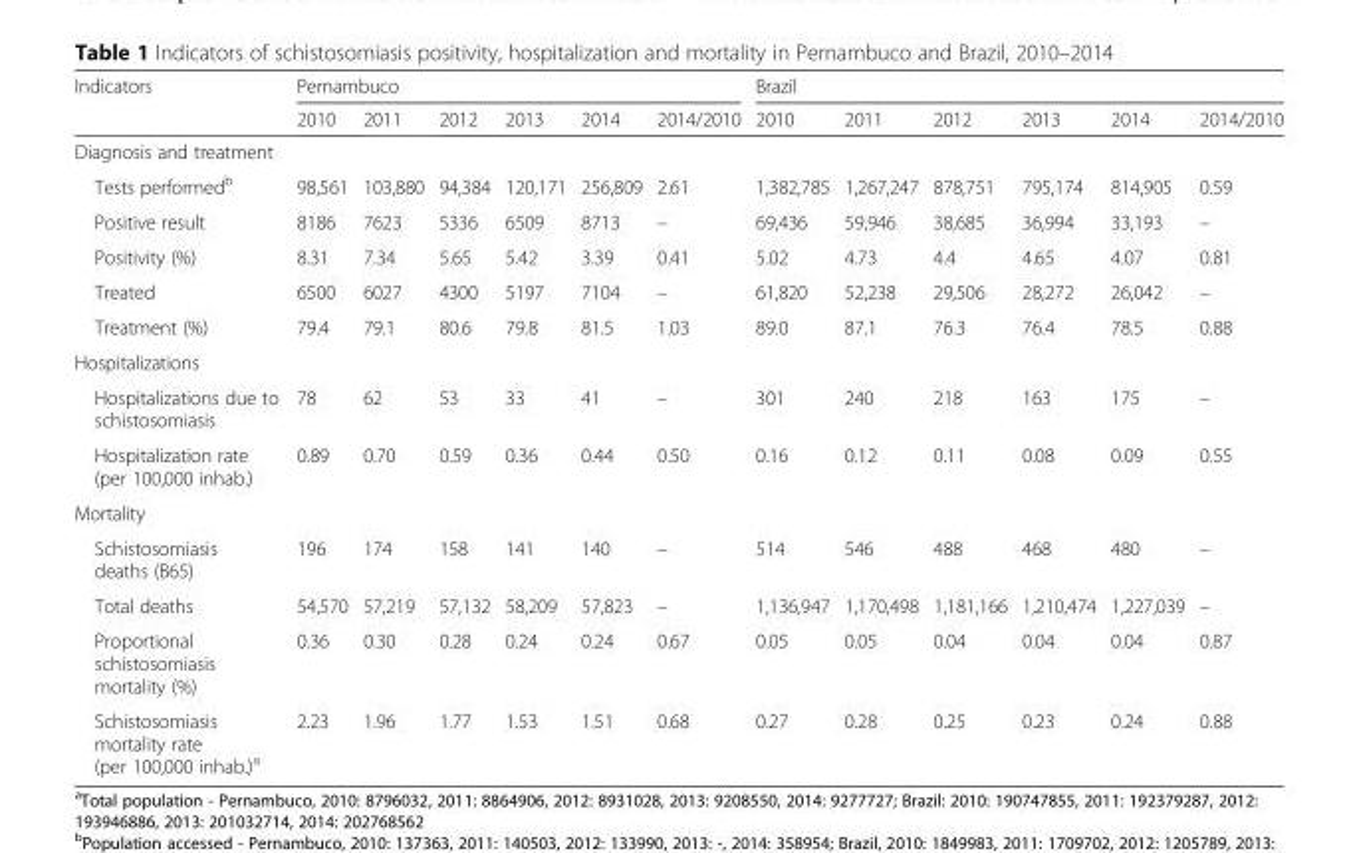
<table><thead><tr><td rowspan="2">Indicators</td><td colspan="6">Pernambuco</td><td colspan="6">Brazil</td></tr><tr><td>2010</td><td>2011</td><td>2012</td><td>2013</td><td>2014</td><td>2014/2010</td><td>2010</td><td>2011</td><td>2012</td><td>2013</td><td>2014</td><td>2014/2010</td></tr></thead><tbody><tr><td colspan="13">Diagnosis and treatment</td></tr><tr><td>Tests performed<sup>b</sup></td><td>98,561</td><td>103,880</td><td>94,384</td><td>120,171</td><td>256,809</td><td>2.61</td><td>1,382,785</td><td>1,267,247</td><td>878,751</td><td>795,174</td><td>814,905</td><td>0.59</td></tr><tr><td>Positive result</td><td>8186</td><td>7623</td><td>5336</td><td>6509</td><td>8713</td><td>–</td><td>69,436</td><td>59,946</td><td>38,685</td><td>36,994</td><td>33,193</td><td>–</td></tr><tr><td>Positivity (%)</td><td>8.31</td><td>7.34</td><td>5.65</td><td>5.42</td><td>3.39</td><td>0.41</td><td>5.02</td><td>4.73</td><td>4.4</td><td>4.65</td><td>4.07</td><td>0.81</td></tr><tr><td>Treated</td><td>6500</td><td>6027</td><td>4300</td><td>5197</td><td>7104</td><td>–</td><td>61,820</td><td>52,238</td><td>29,506</td><td>28,272</td><td>26,042</td><td>–</td></tr><tr><td>Treatment (%)</td><td>79.4</td><td>79.1</td><td>80.6</td><td>79.8</td><td>81.5</td><td>1.03</td><td>89.0</td><td>87.1</td><td>76.3</td><td>76.4</td><td>78.5</td><td>0.88</td></tr><tr><td colspan="13">Hospitalizations</td></tr><tr><td>Hospitalizations due to schistosomiasis</td><td>78</td><td>62</td><td>53</td><td>33</td><td>41</td><td>–</td><td>301</td><td>240</td><td>218</td><td>163</td><td>175</td><td>–</td></tr><tr><td>Hospitalization rate (per 100,000 inhab.)</td><td>0.89</td><td>0.70</td><td>0.59</td><td>0.36</td><td>0.44</td><td>0.50</td><td>0.16</td><td>0.12</td><td>0.11</td><td>0.08</td><td>0.09</td><td>0.55</td></tr><tr><td colspan="13">Mortality</td></tr><tr><td>Schistosomiasis deaths (B65)</td><td>196</td><td>174</td><td>158</td><td>141</td><td>140</td><td>–</td><td>514</td><td>546</td><td>488</td><td>468</td><td>480</td><td>–</td></tr><tr><td>Total deaths</td><td>54,570</td><td>57,219</td><td>57,132</td><td>58,209</td><td>57,823</td><td>–</td><td>1,136,947</td><td>1,170,498</td><td>1,181,166</td><td>1,210,474</td><td>1,227,039</td><td>–</td></tr><tr><td>Proportional schistosomiasis mortality (%)</td><td>0.36</td><td>0.30</td><td>0.28</td><td>0.24</td><td>0.24</td><td>0.67</td><td>0.05</td><td>0.05</td><td>0.04</td><td>0.04</td><td>0.04</td><td>0.87</td></tr><tr><td>Schistosomiasis mortality rate (per 100,000 inhab.)<sup>a</sup></td><td>2.23</td><td>1.96</td><td>1.77</td><td>1.53</td><td>1.51</td><td>0.68</td><td>0.27</td><td>0.28</td><td>0.25</td><td>0.23</td><td>0.24</td><td>0.88</td></tr></tbody></table>